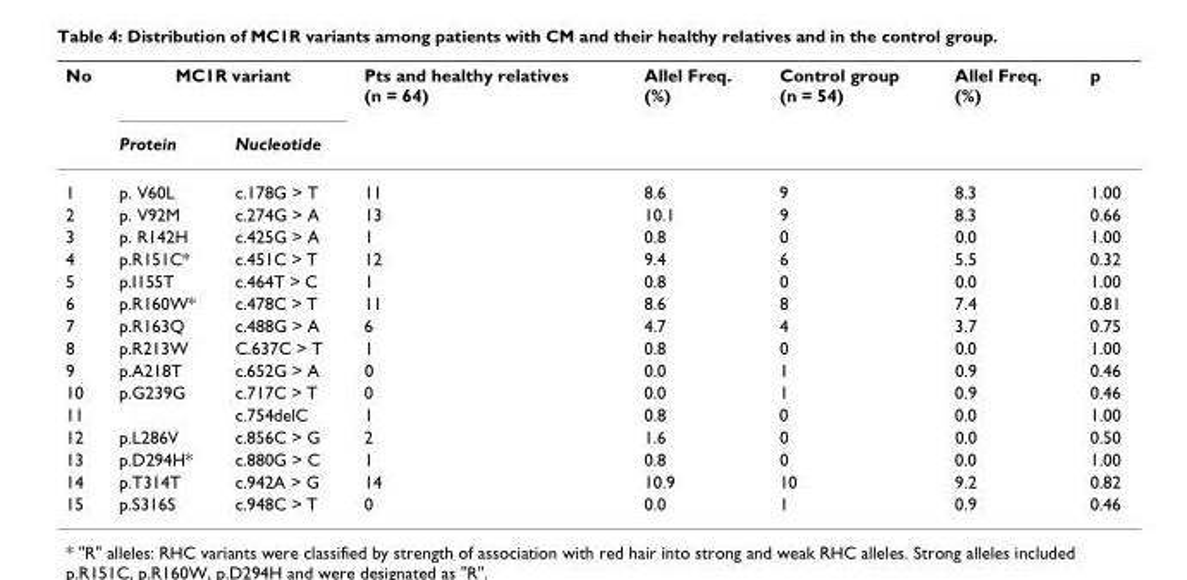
<table><thead><tr><td rowspan="2">No</td><td colspan="2">MC1R variant</td><td rowspan="2">Pts and healthy relatives (n = 64)</td><td rowspan="2">Allel Freq. (%)</td><td rowspan="2">Control group (n = 54)</td><td rowspan="2">Allel Freq. (%)</td><td rowspan="2">p</td></tr><tr><td>Protein</td><td>Nucleotide</td></tr></thead><tbody><tr><td>1</td><td>p. V60L</td><td>c.178G &gt; T</td><td>11</td><td>8.6</td><td>9</td><td>8.3</td><td>1.00</td></tr><tr><td>2</td><td>p. V92M</td><td>c.274G &gt; A</td><td>13</td><td>10.1</td><td>9</td><td>8.3</td><td>0.66</td></tr><tr><td>3</td><td>p. R142H</td><td>c.425G &gt; A</td><td>1</td><td>0.8</td><td>0</td><td>0.0</td><td>1.00</td></tr><tr><td>4</td><td>p.R151C*</td><td>c.451C &gt; T</td><td>12</td><td>9.4</td><td>6</td><td>5.5</td><td>0.32</td></tr><tr><td>5</td><td>p.I155T</td><td>c.464T &gt; C</td><td>1</td><td>0.8</td><td>0</td><td>0.0</td><td>1.00</td></tr><tr><td>6</td><td>p.R160W*</td><td>c.478C &gt; T</td><td>11</td><td>8.6</td><td>8</td><td>7.4</td><td>0.81</td></tr><tr><td>7</td><td>p.R163Q</td><td>c.488G &gt; A</td><td>6</td><td>4.7</td><td>4</td><td>3.7</td><td>0.75</td></tr><tr><td>8</td><td>p.R213W</td><td>C.637C &gt; T</td><td>1</td><td>0.8</td><td>0</td><td>0.0</td><td>1.00</td></tr><tr><td>9</td><td>p.A218T</td><td>c.652G &gt; A</td><td>0</td><td>0.0</td><td>1</td><td>0.9</td><td>0.46</td></tr><tr><td>10</td><td>p.G239G</td><td>c.717C &gt; T</td><td>0</td><td>0.0</td><td>1</td><td>0.9</td><td>0.46</td></tr><tr><td>11</td><td></td><td>c.754delC</td><td>1</td><td>0.8</td><td>0</td><td>0.0</td><td>1.00</td></tr><tr><td>12</td><td>p.L286V</td><td>c.856C &gt; G</td><td>2</td><td>1.6</td><td>0</td><td>0.0</td><td>0.50</td></tr><tr><td>13</td><td>p.D294H*</td><td>c.880G &gt; C</td><td>1</td><td>0.8</td><td>0</td><td>0.0</td><td>1.00</td></tr><tr><td>14</td><td>p.T314T</td><td>c.942A &gt; G</td><td>14</td><td>10.9</td><td>10</td><td>9.2</td><td>0.82</td></tr><tr><td>15</td><td>p.S316S</td><td>c.948C &gt; T</td><td>0</td><td>0.0</td><td>1</td><td>0.9</td><td>0.46</td></tr></tbody></table>